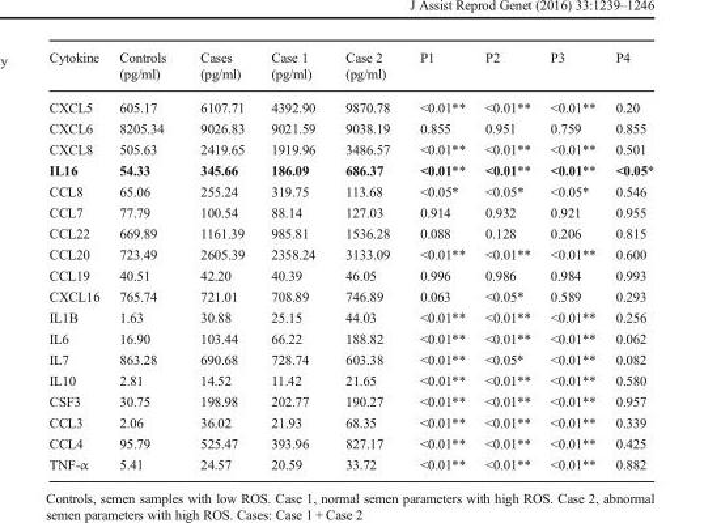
<table><thead><tr><td>Cytokine</td><td>Controls (pg/ml)</td><td>Cases (pg/ml)</td><td>Case 1 (pg/ml)</td><td>Case 2 (pg/ml)</td><td>P1</td><td>P2</td><td>P3</td><td>P4</td></tr></thead><tbody><tr><td>CXCL5</td><td>605.17</td><td>6107.71</td><td>4392.90</td><td>9870.78</td><td>&lt;0.01**</td><td>&lt;0.01**</td><td>&lt;0.01**</td><td>0.20</td></tr><tr><td>CXCL6</td><td>8205.34</td><td>9026.83</td><td>9021.59</td><td>9038.19</td><td>0.855</td><td>0.951</td><td>0.759</td><td>0.855</td></tr><tr><td>CXCL8</td><td>505.63</td><td>2419.65</td><td>1919.96</td><td>3486.57</td><td>&lt;0.01**</td><td>&lt;0.01**</td><td>&lt;0.01**</td><td>0.501</td></tr><tr><td>IL16</td><td>54.33</td><td>345.66</td><td>186.09</td><td>686.37</td><td>&lt;0.01**</td><td>&lt;0.01**</td><td>&lt;0.01**</td><td>&lt;0.05*</td></tr><tr><td>CCL8</td><td>65.06</td><td>255.24</td><td>319.75</td><td>113.68</td><td>&lt;0.05*</td><td>&lt;0.05*</td><td>&lt;0.05*</td><td>0.546</td></tr><tr><td>CCL7</td><td>77.79</td><td>100.54</td><td>88.14</td><td>127.03</td><td>0.914</td><td>0.932</td><td>0.921</td><td>0.955</td></tr><tr><td>CCL22</td><td>669.89</td><td>1161.39</td><td>985.81</td><td>1536.28</td><td>0.088</td><td>0.128</td><td>0.206</td><td>0.815</td></tr><tr><td>CCL20</td><td>723.49</td><td>2605.39</td><td>2358.24</td><td>3133.09</td><td>&lt;0.01**</td><td>&lt;0.01**</td><td>&lt;0.01**</td><td>0.600</td></tr><tr><td>CCL19</td><td>40.51</td><td>42.20</td><td>40.39</td><td>46.05</td><td>0.996</td><td>0.986</td><td>0.984</td><td>0.993</td></tr><tr><td>CXCL16</td><td>765.74</td><td>721.01</td><td>708.89</td><td>746.89</td><td>0.063</td><td>&lt;0.05*</td><td>0.589</td><td>0.293</td></tr><tr><td>IL1B</td><td>1.63</td><td>30.88</td><td>25.15</td><td>44.03</td><td>&lt;0.01**</td><td>&lt;0.01**</td><td>&lt;0.01**</td><td>0.256</td></tr><tr><td>IL6</td><td>16.90</td><td>103.44</td><td>66.22</td><td>188.82</td><td>&lt;0.01**</td><td>&lt;0.01**</td><td>&lt;0.01**</td><td>0.062</td></tr><tr><td>IL7</td><td>863.28</td><td>690.68</td><td>728.74</td><td>603.38</td><td>&lt;0.01**</td><td>&lt;0.05*</td><td>&lt;0.01**</td><td>0.082</td></tr><tr><td>IL10</td><td>2.81</td><td>14.52</td><td>11.42</td><td>21.65</td><td>&lt;0.01**</td><td>&lt;0.01**</td><td>&lt;0.01**</td><td>0.580</td></tr><tr><td>CSF3</td><td>30.75</td><td>198.98</td><td>202.77</td><td>190.27</td><td>&lt;0.01**</td><td>&lt;0.01**</td><td>&lt;0.01**</td><td>0.957</td></tr><tr><td>CCL3</td><td>2.06</td><td>36.02</td><td>21.93</td><td>68.35</td><td>&lt;0.01**</td><td>&lt;0.01**</td><td>&lt;0.01**</td><td>0.339</td></tr><tr><td>CCL4</td><td>95.79</td><td>525.47</td><td>393.96</td><td>827.17</td><td>&lt;0.01**</td><td>&lt;0.01**</td><td>&lt;0.01**</td><td>0.425</td></tr><tr><td>TNF-α</td><td>5.41</td><td>24.57</td><td>20.59</td><td>33.72</td><td>&lt;0.01**</td><td>&lt;0.01**</td><td>&lt;0.01**</td><td>0.882</td></tr></tbody></table>